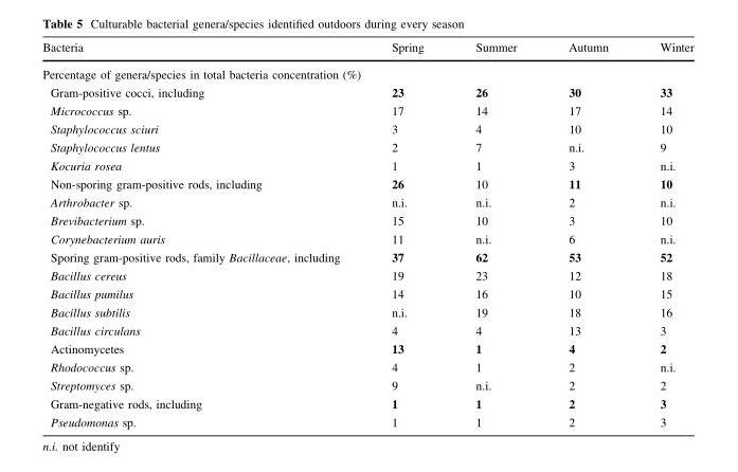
<table><thead><tr><td>Bacteria</td><td>Spring</td><td>Summer</td><td>Autumn</td><td>Winter</td></tr></thead><tbody><tr><td colspan="5">Percentage of genera/species in total bacteria concentration (%)</td></tr><tr><td>Gram-positive cocci, including</td><td>23</td><td>26</td><td>30</td><td>33</td></tr><tr><td>Micrococcus sp.</td><td>17</td><td>14</td><td>17</td><td>14</td></tr><tr><td>Staphylococcus sciuri</td><td>3</td><td>4</td><td>10</td><td>10</td></tr><tr><td>Staphylococcus lentus</td><td>2</td><td>7</td><td>n.i.</td><td>9</td></tr><tr><td>Kocuria rosea</td><td>1</td><td>1</td><td>3</td><td>n.i.</td></tr><tr><td>Non-sporing gram-positive rods, including</td><td>26</td><td>10</td><td>11</td><td>10</td></tr><tr><td>Arthrobacter sp.</td><td>n.i.</td><td>n.i.</td><td>2</td><td>n.i.</td></tr><tr><td>Brevibacterium sp.</td><td>15</td><td>10</td><td>3</td><td>10</td></tr><tr><td>Corynebacterium auris</td><td>11</td><td>n.i.</td><td>6</td><td>n.i.</td></tr><tr><td>Sporing gram-positive rods, family Bacillaceae, including</td><td>37</td><td>62</td><td>53</td><td>52</td></tr><tr><td>Bacillus cereus</td><td>19</td><td>23</td><td>12</td><td>18</td></tr><tr><td>Bacillus pumilus</td><td>14</td><td>16</td><td>10</td><td>15</td></tr><tr><td>Bacillus subtilis</td><td>n.i.</td><td>19</td><td>18</td><td>16</td></tr><tr><td>Bacillus circulans</td><td>4</td><td>4</td><td>13</td><td>3</td></tr><tr><td>Actinomycetes</td><td>13</td><td>1</td><td>4</td><td>2</td></tr><tr><td>Rhodococcus sp.</td><td>4</td><td>1</td><td>2</td><td>n.i.</td></tr><tr><td>Streptomyces sp.</td><td>9</td><td>n.i.</td><td>2</td><td>2</td></tr><tr><td>Gram-negative rods, including</td><td>1</td><td>1</td><td>2</td><td>3</td></tr><tr><td>Pseudomonas sp.</td><td>1</td><td>1</td><td>2</td><td>3</td></tr></tbody></table>